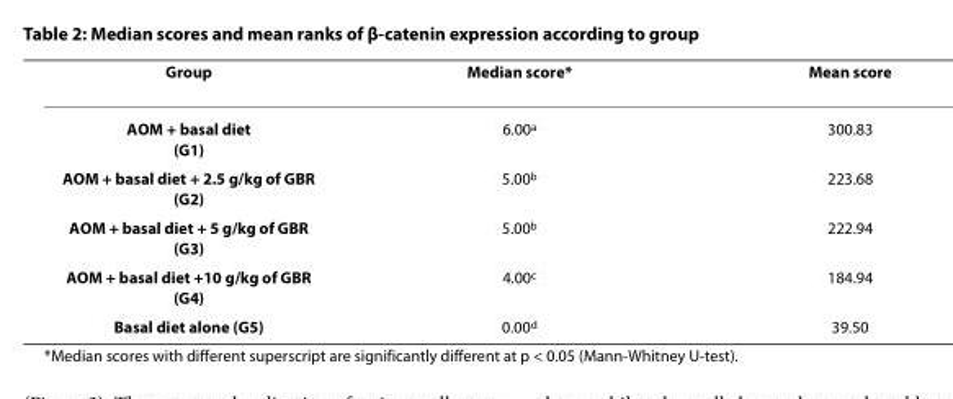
<table><thead><tr><td>Group</td><td>Median score*</td><td>Mean score</td></tr></thead><tbody><tr><td>AOM + basal diet (G1)</td><td>6.00<sup>a</sup></td><td>300.83</td></tr><tr><td>AOM + basal diet + 2.5 g/kg of GBR (G2)</td><td>5.00<sup>b</sup></td><td>223.68</td></tr><tr><td>AOM + basal diet + 5 g/kg of GBR (G3)</td><td>5.00<sup>b</sup></td><td>222.94</td></tr><tr><td>AOM + basal diet +10 g/kg of GBR (G4)</td><td>4.00<sup>c</sup></td><td>184.94</td></tr><tr><td>Basal diet alone (G5)</td><td>0.00<sup>d</sup></td><td>39.50</td></tr></tbody></table>